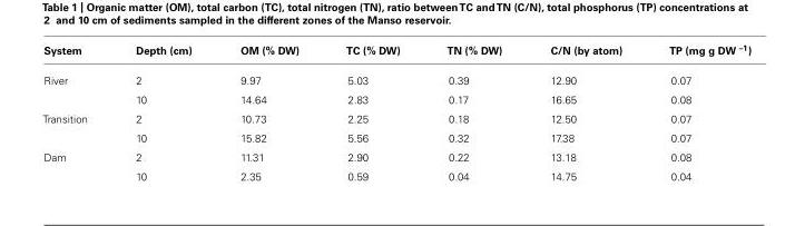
<table><thead><tr><td>System</td><td>Depth (cm)</td><td>OM (% DW)</td><td>TC (% DW)</td><td>TN (% DW)</td><td>C/N (by atom)</td><td>TP (mg g DW <sup>–1</sup>)</td></tr></thead><tbody><tr><td rowspan="2">River</td><td>2</td><td>9.97</td><td>5.03</td><td>0.39</td><td>12.90</td><td>0.07</td></tr><tr><td>10</td><td>14.64</td><td>2.83</td><td>0.17</td><td>16.65</td><td>0.08</td></tr><tr><td rowspan="2">Transition</td><td>2</td><td>10.73</td><td>2.25</td><td>0.18</td><td>12.50</td><td>0.07</td></tr><tr><td>10</td><td>15.82</td><td>5.56</td><td>0.32</td><td>17.38</td><td>0.07</td></tr><tr><td rowspan="2">Dam</td><td>2</td><td>11.31</td><td>2.90</td><td>0.22</td><td>13.18</td><td>0.08</td></tr><tr><td>10</td><td>2.35</td><td>0.59</td><td>0.04</td><td>14.75</td><td>0.04</td></tr></tbody></table>